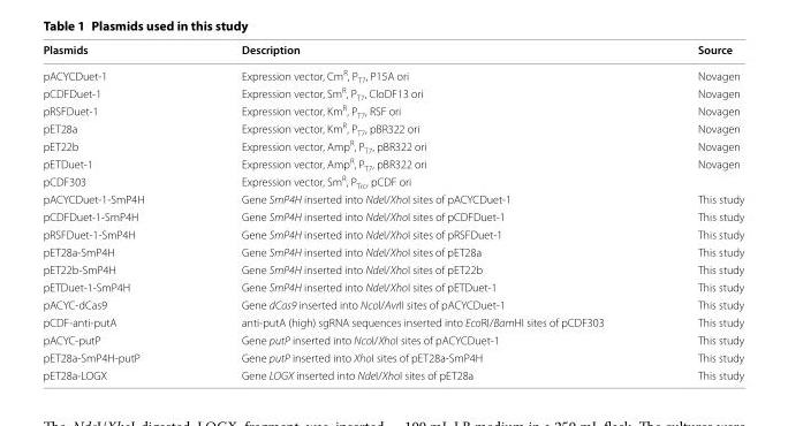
<table><thead><tr><td>Plasmids</td><td>Description</td><td>Source</td></tr></thead><tbody><tr><td>pACYCDuet-1</td><td>Expression vector, Cm<sup>R</sup>, P<sub>T7</sub>, P15A ori</td><td>Novagen</td></tr><tr><td>pCDFDuet-1</td><td>Expression vector, Sm<sup>R</sup>, P<sub>T7</sub>, CloDF13 ori</td><td>Novagen</td></tr><tr><td>pRSFDuet-1</td><td>Expression vector, Km<sup>R</sup>, P<sub>T7</sub>, RSF ori</td><td>Novagen</td></tr><tr><td>pET28a</td><td>Expression vector, Km<sup>R</sup>, P<sub>T7</sub>, pBR322 ori</td><td>Novagen</td></tr><tr><td>pET22b</td><td>Expression vector, Amp<sup>R</sup>, P<sub>T7</sub>, pBR322 ori</td><td>Novagen</td></tr><tr><td>pETDuet-1</td><td>Expression vector, Amp<sup>R</sup>, P<sub>T7</sub>, pBR322 ori</td><td>Novagen</td></tr><tr><td>pCDF303</td><td>Expression vector, Sm<sup>R</sup>, P<sub>Trc</sub>, pCDF ori</td><td></td></tr><tr><td>pACYCDuet-1-SmP4H</td><td>Gene SmP4H inserted into NdeI/XhoI sites of pACYCDuet-1</td><td>This study</td></tr><tr><td>pCDFDuet-1-SmP4H</td><td>Gene SmP4H inserted into NdeI/XhoI sites of pCDFDuet-1</td><td>This study</td></tr><tr><td>pRSFDuet-1-SmP4H</td><td>Gene SmP4H inserted into NdeI/XhoI sites of pRSFDuet-1</td><td>This study</td></tr><tr><td>pET28a-SmP4H</td><td>Gene SmP4H inserted into NdeI/XhoI sites of pET28a</td><td>This study</td></tr><tr><td>pET22b-SmP4H</td><td>Gene SmP4H inserted into NdeI/XhoI sites of pET22b</td><td>This study</td></tr><tr><td>pETDuet-1-SmP4H</td><td>Gene SmP4H inserted into NdeI/XhoI sites of pETDuet-1</td><td>This study</td></tr><tr><td>pACYC-dCas9</td><td>Gene dCas9 inserted into NcoI/AvrII sites of pACYCDuet-1</td><td>This study</td></tr><tr><td>pCDF-anti-putA</td><td>anti-putA (high) sgRNA sequences inserted into EcoRI/BamHI sites of pCDF303</td><td>This study</td></tr><tr><td>pACYC-putP</td><td>Gene putP inserted into NcoI/XhoI sites of pACYCDuet-1</td><td>This study</td></tr><tr><td>pET28a-SmP4H-putP</td><td>Gene putP inserted into XhoI sites of pET28a-SmP4H</td><td>This study</td></tr><tr><td>pET28a-LOGX</td><td>Gene LOGX inserted into NdeI/XhoI sites of pET28a</td><td>This study</td></tr></tbody></table>